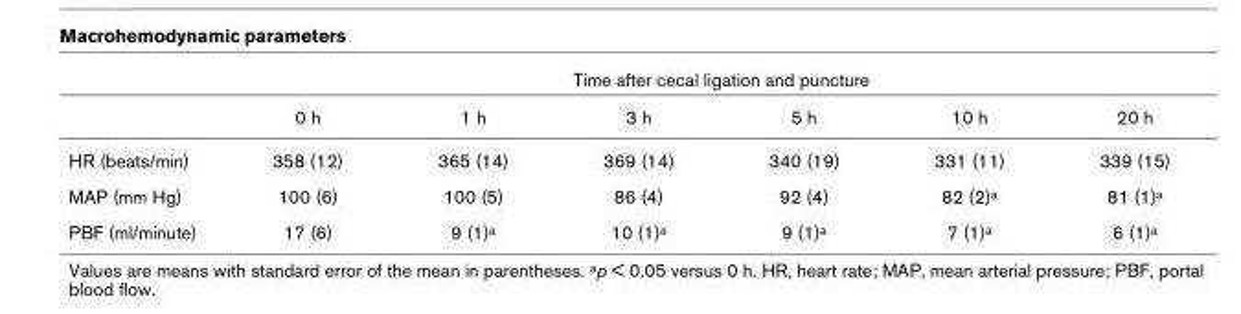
<table><thead><tr><td rowspan="2"></td><td colspan="6">Time after cecal ligation and puncture</td></tr><tr><td>0 h</td><td>1 h</td><td>3 h</td><td>5 h</td><td>10 h</td><td>20 h</td></tr></thead><tbody><tr><td>HR (beats/min)</td><td>358 (12)</td><td>365 (14)</td><td>369 (14)</td><td>340 (19)</td><td>331 (11)</td><td>339 (15)</td></tr><tr><td>MAP (mm Hg)</td><td>100 (6)</td><td>100 (5)</td><td>86 (4)</td><td>92 (4)</td><td>82 (2)a</td><td>81 (1)a</td></tr><tr><td>PBF (ml/minute)</td><td>17 (6)</td><td>9 (1)a</td><td>10 (1)a</td><td>9 (1)a</td><td>7 (1)a</td><td>6 (1)a</td></tr></tbody></table>